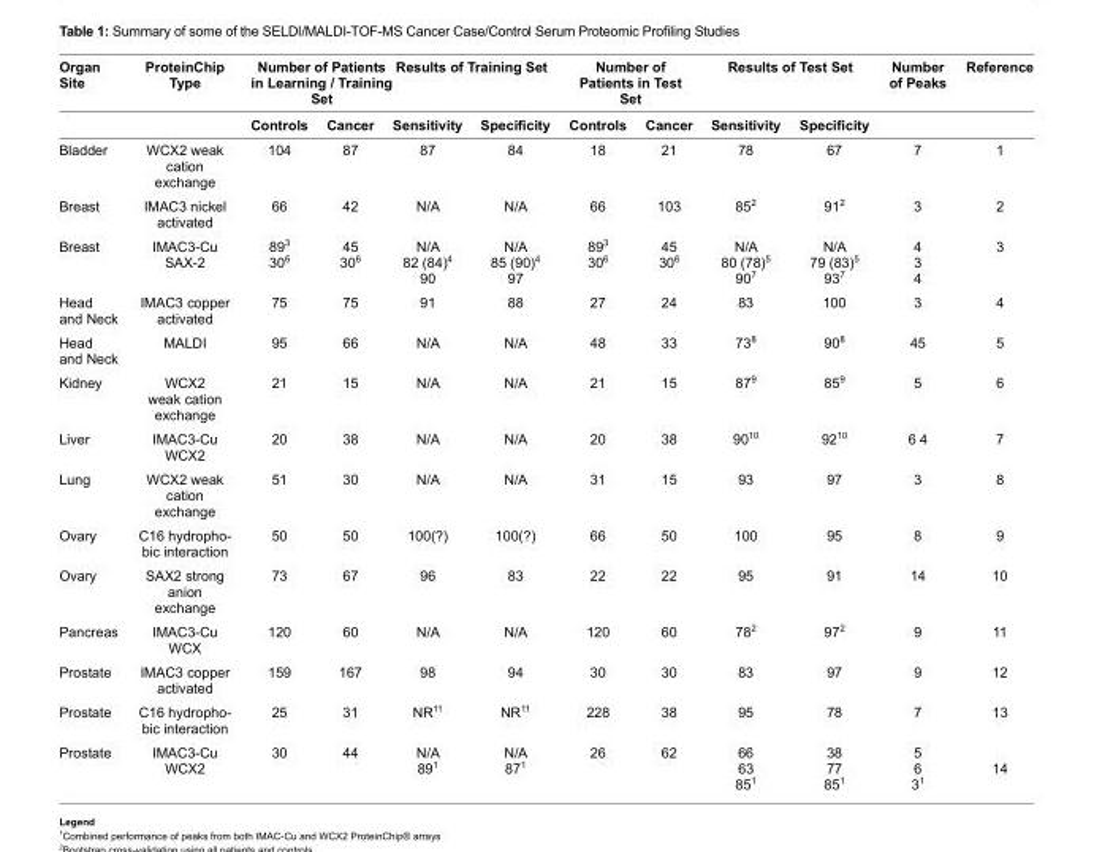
<table><thead><tr><td rowspan="2">Organ Site</td><td rowspan="2">ProteinChip Type</td><td colspan="2">Number of Patients in Learning / Training Set</td><td colspan="2">Results of Training Set</td><td colspan="2">Number of Patients in Test Set</td><td colspan="2">Results of Test Set</td><td rowspan="2">Number of Peaks</td><td rowspan="2">Reference</td></tr><tr><td>Controls</td><td>Cancer</td><td>Sensitivity</td><td>Specifi city</td><td>Controls</td><td>Cancer</td><td>Sensitivity</td><td>Specifi city</td></tr></thead><tbody><tr><td>Bladder</td><td>WCX2 weak cation exchange</td><td>104</td><td>87</td><td>87</td><td>84</td><td>18</td><td>21</td><td>78</td><td>67</td><td>7</td><td>1</td></tr><tr><td>Breast</td><td>IMAC3 nickel activated</td><td>66</td><td>42</td><td>N/A</td><td>N/A</td><td>66</td><td>103</td><td>85<sup>2</sup></td><td>91<sup>2</sup></td><td>3</td><td>2</td></tr><tr><td>Breast</td><td>IMAC3-Cu SAX-2</td><td>89<sup>3</sup> 30<sup>6</sup></td><td>45 30<sup>6</sup></td><td>N/A 82 (84)<sup>4</sup> 90</td><td>N/A 85 (90)<sup>4</sup> 97</td><td>89<sup>3</sup> 30<sup>6</sup></td><td>45 30<sup>6</sup></td><td>N/A 80 (78)<sup>5</sup> 90<sup>7</sup></td><td>N/A 79 (83)<sup>5</sup> 93<sup>7</sup></td><td>4 3 4</td><td>3</td></tr><tr><td>Head and Neck</td><td>IMAC3 copper activated</td><td>75</td><td>75</td><td>91</td><td>88</td><td>27</td><td>24</td><td>83</td><td>100</td><td>3</td><td>4</td></tr><tr><td>Head and Neck</td><td>MALDI</td><td>95</td><td>66</td><td>N/A</td><td>N/A</td><td>48</td><td>33</td><td>73<sup>8</sup></td><td>90<sup>8</sup></td><td>45</td><td>5</td></tr><tr><td>Kidney</td><td>WCX2 weak cation exchange</td><td>21</td><td>15</td><td>N/A</td><td>N/A</td><td>21</td><td>15</td><td>87<sup>9</sup></td><td>85<sup>9</sup></td><td>5</td><td>6</td></tr><tr><td>Liver</td><td>IMAC3-Cu WCX2</td><td>20</td><td>38</td><td>N/A</td><td>N/A</td><td>20</td><td>38</td><td>90<sup>10</sup></td><td>92<sup>10</sup></td><td>6 4</td><td>7</td></tr><tr><td>Lung</td><td>WCX2 weak cation exchange</td><td>51</td><td>30</td><td>N/A</td><td>N/A</td><td>31</td><td>15</td><td>93</td><td>97</td><td>3</td><td>8</td></tr><tr><td>Ovary</td><td>C16 hydropho- bic interaction</td><td>50</td><td>50</td><td>100(?)</td><td>100(?)</td><td>66</td><td>50</td><td>100</td><td>95</td><td>8</td><td>9</td></tr><tr><td>Ovary</td><td>SAX2 strong anion exchange</td><td>73</td><td>67</td><td>96</td><td>83</td><td>22</td><td>22</td><td>95</td><td>91</td><td>14</td><td>10</td></tr><tr><td>Pancreas</td><td>IMAC3-Cu WCX</td><td>120</td><td>60</td><td>N/A</td><td>N/A</td><td>120</td><td>60</td><td>78<sup>2</sup></td><td>97<sup>2</sup></td><td>9</td><td>11</td></tr><tr><td>Prostate</td><td>IMAC3 copper activated</td><td>159</td><td>167</td><td>98</td><td>94</td><td>30</td><td>30</td><td>83</td><td>97</td><td>9</td><td>12</td></tr><tr><td>Prostate</td><td>C16 hydropho- bic interaction</td><td>25</td><td>31</td><td>NR<sup>11</sup></td><td>NR<sup>11</sup></td><td>228</td><td>38</td><td>95</td><td>78</td><td>7</td><td>13</td></tr><tr><td>Prostate</td><td>IMAC3-Cu WCX2</td><td>30</td><td>44</td><td>N/A 89<sup>1</sup></td><td>N/A 87<sup>1</sup></td><td>26</td><td>62</td><td>66 63 85<sup>1</sup></td><td>38 77 85<sup>1</sup></td><td>5 6 3<sup>1</sup></td><td>14</td></tr></tbody></table>